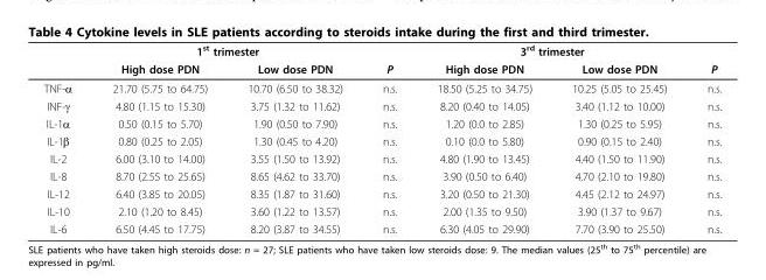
<table><thead><tr><td rowspan="2"></td><td colspan="2">1<sup>st</sup> trimester</td><td rowspan="2">P</td><td colspan="2">3<sup>rd</sup> trimester</td><td rowspan="2">P</td></tr><tr><td>High dose PDN</td><td>Low dose PDN</td><td>High dose PDN</td><td>Low dose PDN</td></tr></thead><tbody><tr><td>TNF-α</td><td>21.70 (5.75 to 64.75)</td><td>10.70 (6.50 to 38.32)</td><td>n.s.</td><td>18.50 (5.25 to 34.75)</td><td>10.25 (5.05 to 25.45)</td><td>n.s.</td></tr><tr><td>INF-γ</td><td>4.80 (1.15 to 15.30)</td><td>3.75 (1.32 to 11.62)</td><td>n.s.</td><td>8.20 (0.40 to 14.05)</td><td>3.40 (1.12 to 10.00)</td><td>n.s.</td></tr><tr><td>IL-1α</td><td>0.50 (0.15 to 5.70)</td><td>1.90 (0.50 to 7.90)</td><td>n.s.</td><td>1.20 (0.0 to 2.85)</td><td>1.30 (0.25 to 5.95)</td><td>n.s.</td></tr><tr><td>IL-1β</td><td>0.80 (0.25 to 2.05)</td><td>1.30 (0.45 to 4.20)</td><td>n.s.</td><td>0.10 (0.0 to 5.80)</td><td>0.90 (0.15 to 2.40)</td><td>n.s.</td></tr><tr><td>IL-2</td><td>6.00 (3.10 to 14.00)</td><td>3.55 (1.50 to 13.92)</td><td>n.s.</td><td>4.80 (1.90 to 13.45)</td><td>4.40 (1.50 to 11.90)</td><td>n.s.</td></tr><tr><td>IL-8</td><td>8.70 (2.55 to 25.65)</td><td>8.65 (4.62 to 33.70)</td><td>n.s.</td><td>3.90 (0.50 to 6.40)</td><td>4.70 (2.10 to 19.80)</td><td>n.s.</td></tr><tr><td>IL-12</td><td>6.40 (3.85 to 20.05)</td><td>8.35 (1.87 to 31.60)</td><td>n.s.</td><td>3.20 (0.50 to 21.30)</td><td>4.45 (2.12 to 24.97)</td><td>n.s.</td></tr><tr><td>IL-10</td><td>2.10 (1.20 to 8.45)</td><td>3.60 (1.22 to 13.57)</td><td>n.s.</td><td>2.00 (1.35 to 9.50)</td><td>3.90 (1.37 to 9.67)</td><td>n.s.</td></tr><tr><td>IL-6</td><td>6.50 (4.45 to 17.75)</td><td>8.20 (3.87 to 34.55)</td><td>n.s.</td><td>6.30 (4.05 to 29.90)</td><td>7.70 (3.90 to 25.50)</td><td>n.s.</td></tr></tbody></table>